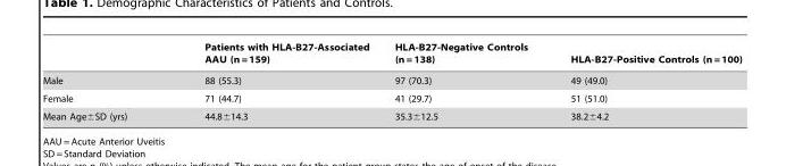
<table><thead><tr><td></td><td>Patients with HLA-B27-Associated AAU (n = 159)</td><td>HLA-B27-Negative Controls (n = 138)</td><td>HLA-B27-Positive Controls (n = 100)</td></tr></thead><tbody><tr><td>Male</td><td>88 (55.3)</td><td>97 (70.3)</td><td>49 (49.0)</td></tr><tr><td>Female</td><td>71 (44.7)</td><td>41 (29.7)</td><td>51 (51.0)</td></tr><tr><td>Mean Age±SD (yrs)</td><td>44.8±14.3</td><td>35.3±12.5</td><td>38.2±4.2</td></tr></tbody></table>